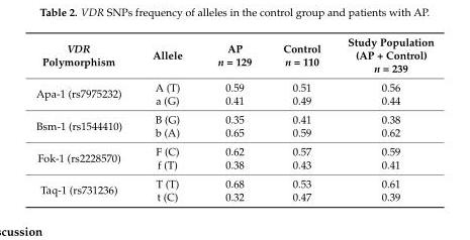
<table><thead><tr><td>VDR Polymorphism</td><td>Allele</td><td>AP n = 129</td><td>Control n = 110</td><td>Study Population (AP + Control) n = 239</td></tr></thead><tbody><tr><td rowspan="2">Apa-1 (rs7975232)</td><td>A (T)</td><td>0.59</td><td>0.51</td><td>0.56</td></tr><tr><td>a (G)</td><td>0.41</td><td>0.49</td><td>0.44</td></tr><tr><td rowspan="2">Bsm-1 (rs1544410)</td><td>B (G)</td><td>0.35</td><td>0.41</td><td>0.38</td></tr><tr><td>b (A)</td><td>0.65</td><td>0.59</td><td>0.62</td></tr><tr><td rowspan="2">Fok-1 (rs2228570)</td><td>F (C)</td><td>0.62</td><td>0.57</td><td>0.59</td></tr><tr><td>f (T)</td><td>0.38</td><td>0.43</td><td>0.41</td></tr><tr><td rowspan="2">Taq-1 (rs731236)</td><td>T (T)</td><td>0.68</td><td>0.53</td><td>0.61</td></tr><tr><td>t (C)</td><td>0.32</td><td>0.47</td><td>0.39</td></tr></tbody></table>